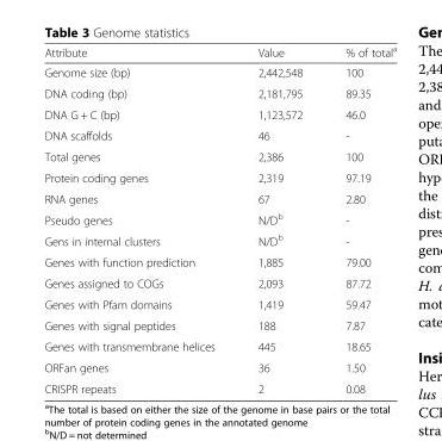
<table><thead><tr><td>Attribute</td><td>Value</td><td>% of totala</td></tr></thead><tbody><tr><td>Genome size (bp)</td><td>2,442,548</td><td>100</td></tr><tr><td>DNA coding (bp)</td><td>2,181,795</td><td>89.35</td></tr><tr><td>DNA G + C (bp)</td><td>1,123,572</td><td>46.0</td></tr><tr><td>DNA scaffolds</td><td>46</td><td>-</td></tr><tr><td>Total genes</td><td>2,386</td><td>100</td></tr><tr><td>Protein coding genes</td><td>2,319</td><td>97.19</td></tr><tr><td>RNA genes</td><td>67</td><td>2.80</td></tr><tr><td>Pseudo genes</td><td>N/Db</td><td>-</td></tr><tr><td>Gens in internal clusters</td><td>N/Db</td><td>-</td></tr><tr><td>Genes with function prediction</td><td>1,885</td><td>79.00</td></tr><tr><td>Genes assigned to COGs</td><td>2,093</td><td>87.72</td></tr><tr><td>Genes with Pfam domains</td><td>1,419</td><td>59.47</td></tr><tr><td>Genes with signal peptides</td><td>188</td><td>7.87</td></tr><tr><td>Genes with transmembrane helices</td><td>445</td><td>18.65</td></tr><tr><td>ORFan genes</td><td>36</td><td>1.50</td></tr><tr><td>CRISPR repeats</td><td>2</td><td>0.08</td></tr></tbody></table>